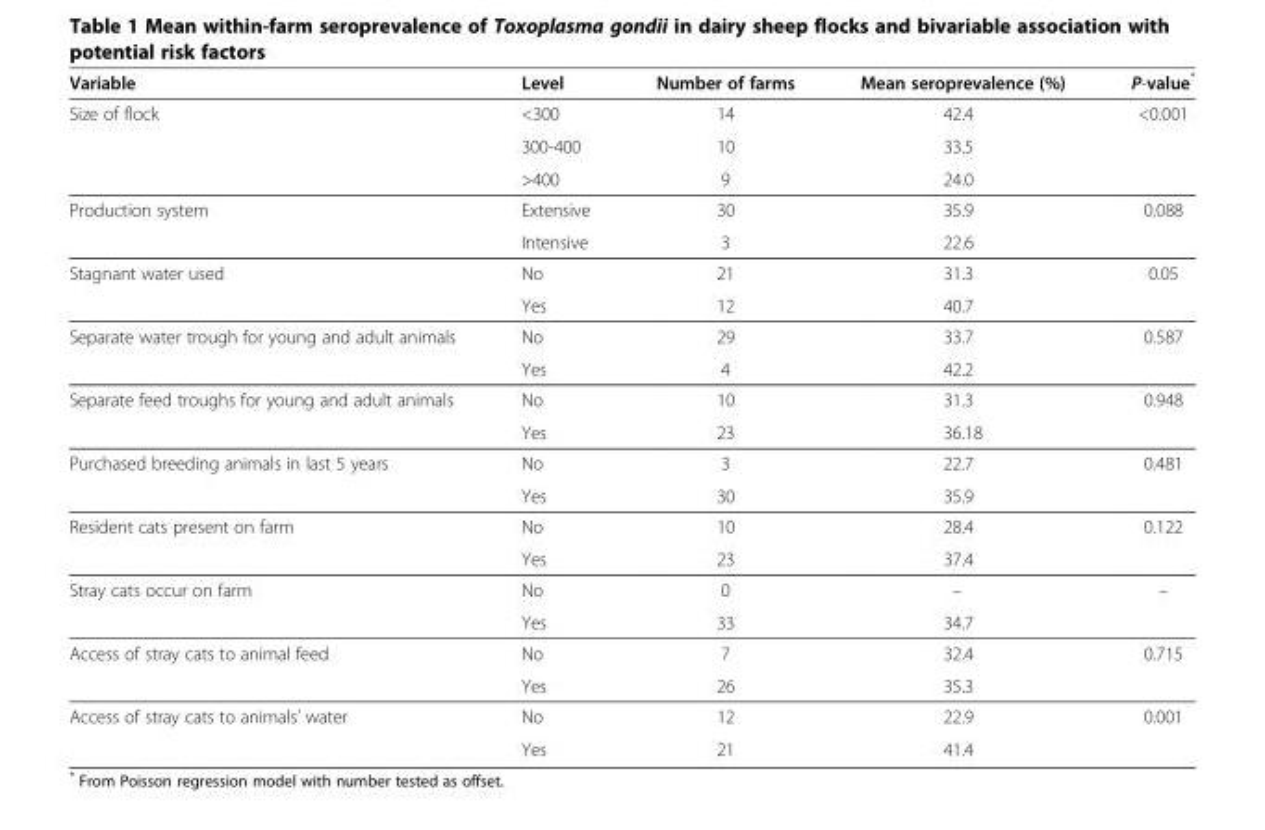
<table><thead><tr><td>Variable</td><td>Level</td><td>Number of farms</td><td>Mean seroprevalence (%)</td><td>P-value*</td></tr></thead><tbody><tr><td rowspan="3">Size of flock</td><td>&lt;300</td><td>14</td><td>42.4</td><td>&lt;0.001</td></tr><tr><td>300-400</td><td>10</td><td>33.5</td><td></td></tr><tr><td>&gt;400</td><td>9</td><td>24.0</td><td></td></tr><tr><td rowspan="2">Production system</td><td>Extensive</td><td>30</td><td>35.9</td><td>0.088</td></tr><tr><td>Intensive</td><td>3</td><td>22.6</td><td></td></tr><tr><td rowspan="2">Stagnant water used</td><td>No</td><td>21</td><td>31.3</td><td>0.05</td></tr><tr><td>Yes</td><td>12</td><td>40.7</td><td></td></tr><tr><td rowspan="2">Separate water trough for young and adult animals</td><td>No</td><td>29</td><td>33.7</td><td>0.587</td></tr><tr><td>Yes</td><td>4</td><td>42.2</td><td></td></tr><tr><td rowspan="2">Separate feed troughs for young and adult animals</td><td>No</td><td>10</td><td>31.3</td><td>0.948</td></tr><tr><td>Yes</td><td>23</td><td>36.18</td><td></td></tr><tr><td rowspan="2">Purchased breeding animals in last 5 years</td><td>No</td><td>3</td><td>22.7</td><td>0.481</td></tr><tr><td>Yes</td><td>30</td><td>35.9</td><td></td></tr><tr><td rowspan="2">Resident cats present on farm</td><td>No</td><td>10</td><td>28.4</td><td>0.122</td></tr><tr><td>Yes</td><td>23</td><td>37.4</td><td></td></tr><tr><td rowspan="2">Stray cats occur on farm</td><td>No</td><td>0</td><td>–</td><td>–</td></tr><tr><td>Yes</td><td>33</td><td>34.7</td><td></td></tr><tr><td rowspan="2">Access of stray cats to animal feed</td><td>No</td><td>7</td><td>32.4</td><td>0.715</td></tr><tr><td>Yes</td><td>26</td><td>35.3</td><td></td></tr><tr><td rowspan="2">Access of stray cats to animals’ water</td><td>No</td><td>12</td><td>22.9</td><td>0.001</td></tr><tr><td>Yes</td><td>21</td><td>41.4</td><td></td></tr></tbody></table>